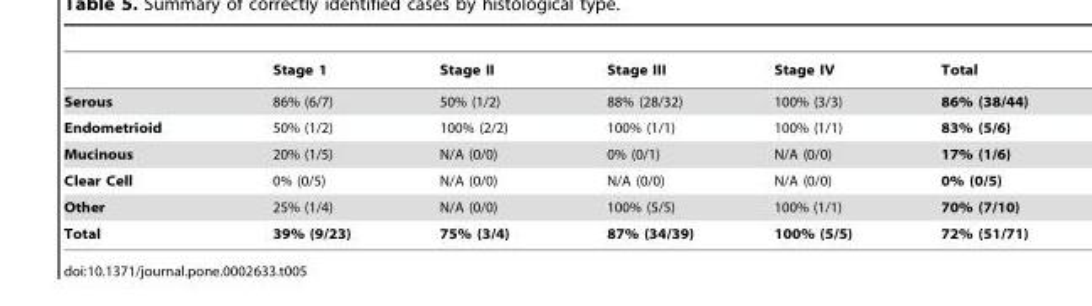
<table><thead><tr><td></td><td>Stage 1</td><td>Stage II</td><td>Stage III</td><td>Stage IV</td><td>Total</td></tr></thead><tbody><tr><td>Serous</td><td>86% (6/7)</td><td>50% (1/2)</td><td>88% (28/32)</td><td>100% (3/3)</td><td>86% (38/44)</td></tr><tr><td>Endometrioid</td><td>50% (1/2)</td><td>100% (2/2)</td><td>100% (1/1)</td><td>100% (1/1)</td><td>83% (5/6)</td></tr><tr><td>Mucinous</td><td>20% (1/5)</td><td>N/A (0/0)</td><td>0% (0/1)</td><td>N/A (0/0)</td><td>17% (1/6)</td></tr><tr><td>Clear Cell</td><td>0% (0/5)</td><td>N/A (0/0)</td><td>N/A (0/0)</td><td>N/A (0/0)</td><td>0% (0/5)</td></tr><tr><td>Other</td><td>25% (1/4)</td><td>N/A (0/0)</td><td>100% (5/5)</td><td>100% (1/1)</td><td>70% (7/10)</td></tr><tr><td>Total</td><td>39% (9/23)</td><td>75% (3/4)</td><td>87% (34/39)</td><td>100% (5/5)</td><td>72% (51/71)</td></tr></tbody></table>